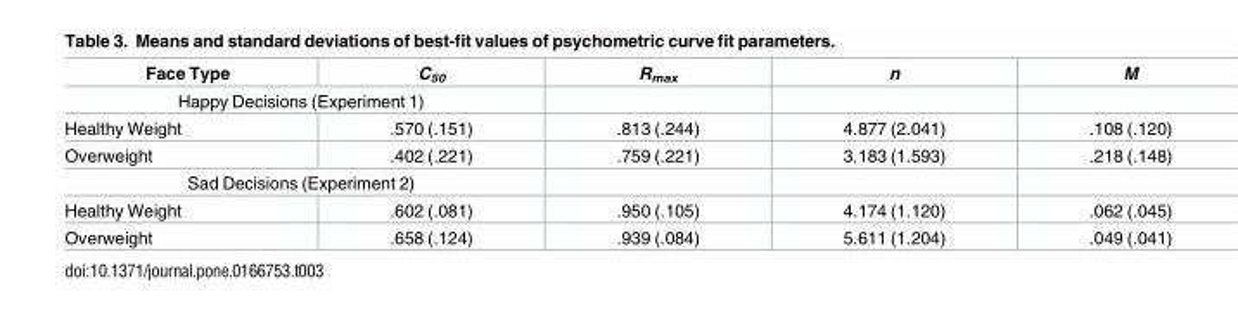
<table><thead><tr><td>Face Type</td><td>C<sub>50</sub></td><td>R<sub>max</sub></td><td>n</td><td>M</td></tr></thead><tbody><tr><td colspan="5">Happy Decisions (Experiment 1)</td></tr><tr><td>Healthy Weight</td><td>.570 (.151)</td><td>.813 (.244)</td><td>4.877 (2.041)</td><td>.108 (.120)</td></tr><tr><td>Overweight</td><td>.402 (.221)</td><td>.759 (.221)</td><td>3.183 (1.593)</td><td>.218 (.148)</td></tr><tr><td colspan="5">Sad Decisions (Experiment 2)</td></tr><tr><td>Healthy Weight</td><td>.602 (.081)</td><td>.950 (.105)</td><td>4.174 (1.120)</td><td>.062 (.045)</td></tr><tr><td>Overweight</td><td>.658 (.124)</td><td>.939 (.084)</td><td>5.611 (1.204)</td><td>.049 (.041)</td></tr></tbody></table>